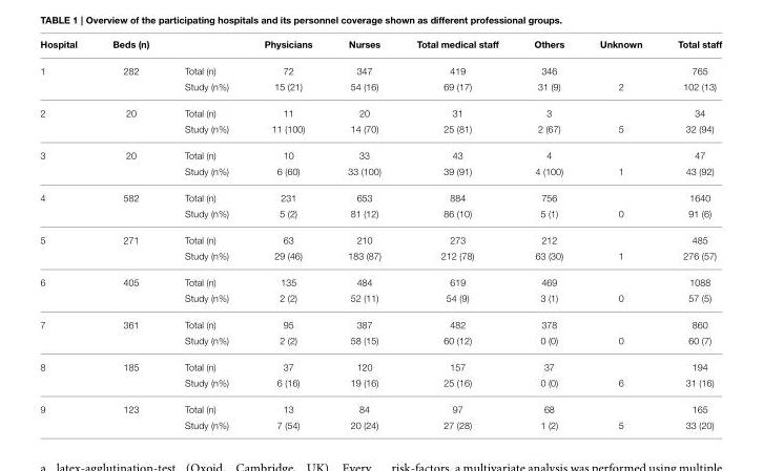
<table><thead><tr><td>Hospital</td><td>Beds (n)</td><td></td><td>Physicians</td><td>Nurses</td><td>Total medical staff</td><td>Others</td><td>Unknown</td><td>Total staff</td></tr></thead><tbody><tr><td rowspan="2">1</td><td>282</td><td>Total (n)</td><td>72</td><td>347</td><td>419</td><td>346</td><td></td><td>765</td></tr><tr><td></td><td>Study (n%)</td><td>15 (21)</td><td>54 (16)</td><td>69 (17)</td><td>31 (9)</td><td>2</td><td>102 (13)</td></tr><tr><td rowspan="2">2</td><td>20</td><td>Total (n)</td><td>11</td><td>20</td><td>31</td><td>3</td><td></td><td>34</td></tr><tr><td></td><td>Study (n%)</td><td>11 (100)</td><td>14 (70)</td><td>25 (81)</td><td>2 (67)</td><td>5</td><td>32 (94)</td></tr><tr><td rowspan="2">3</td><td>20</td><td>Total (n)</td><td>10</td><td>33</td><td>43</td><td>4</td><td></td><td>47</td></tr><tr><td></td><td>Study (n%)</td><td>6 (60)</td><td>33 (100)</td><td>39 (91)</td><td>4 (100)</td><td>1</td><td>43 (92)</td></tr><tr><td rowspan="2">4</td><td>582</td><td>Total (n)</td><td>231</td><td>653</td><td>884</td><td>756</td><td></td><td>1640</td></tr><tr><td></td><td>Study (n%)</td><td>5 (2)</td><td>81 (12)</td><td>86 (10)</td><td>5 (1)</td><td>0</td><td>91 (6)</td></tr><tr><td rowspan="2">5</td><td>271</td><td>Total (n)</td><td>63</td><td>210</td><td>273</td><td>212</td><td></td><td>485</td></tr><tr><td></td><td>Study (n%)</td><td>29 (46)</td><td>183 (87)</td><td>212 (78)</td><td>63 (30)</td><td>1</td><td>276 (57)</td></tr><tr><td rowspan="2">6</td><td>405</td><td>Total (n)</td><td>135</td><td>484</td><td>619</td><td>469</td><td></td><td>1088</td></tr><tr><td></td><td>Study (n%)</td><td>2 (2)</td><td>52 (11)</td><td>54 (9)</td><td>3 (1)</td><td>0</td><td>57 (5)</td></tr><tr><td rowspan="2">7</td><td>361</td><td>Total (n)</td><td>95</td><td>387</td><td>482</td><td>378</td><td></td><td>860</td></tr><tr><td></td><td>Study (n%)</td><td>2 (2)</td><td>58 (15)</td><td>60 (12)</td><td>0 (0)</td><td>0</td><td>60 (7)</td></tr><tr><td rowspan="2">8</td><td>185</td><td>Total (n)</td><td>37</td><td>120</td><td>157</td><td>37</td><td></td><td>194</td></tr><tr><td></td><td>Study (n%)</td><td>6 (16)</td><td>19 (16)</td><td>25 (16)</td><td>0 (0)</td><td>6</td><td>31 (16)</td></tr><tr><td rowspan="2">9</td><td>123</td><td>Total (n)</td><td>13</td><td>84</td><td>97</td><td>68</td><td></td><td>165</td></tr><tr><td></td><td>Study (n%)</td><td>7 (54)</td><td>20 (24)</td><td>27 (28)</td><td>1 (2)</td><td>5</td><td>33 (20)</td></tr></tbody></table>